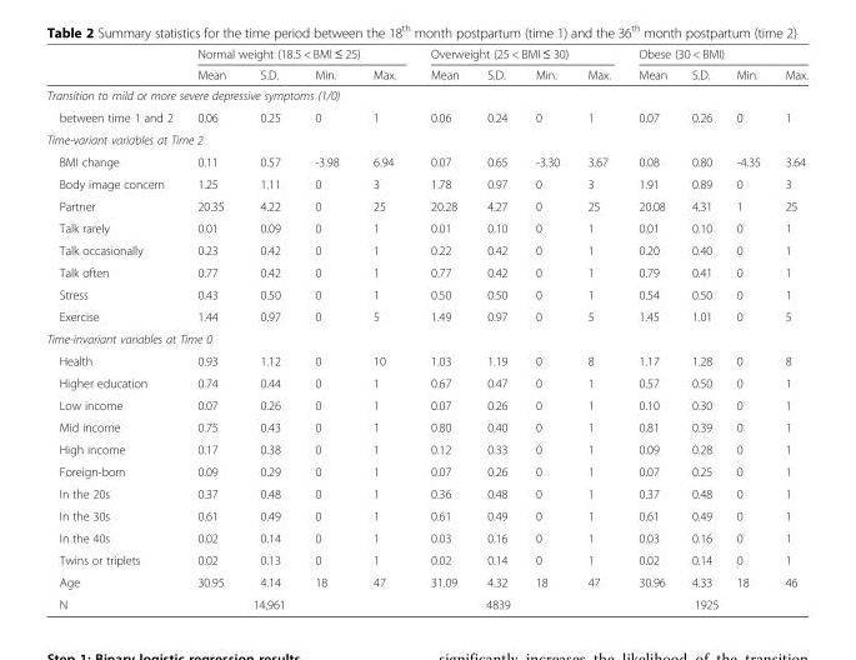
<table><thead><tr><td rowspan="2"></td><td colspan="4">Normal weight (18.5 &lt; BMI ≤ 25)</td><td colspan="4">Overweight (25 &lt; BMI ≤ 30)</td><td colspan="4">Obese (30 &lt; BMI)</td></tr><tr><td>Mean</td><td>S.D.</td><td>Min.</td><td>Max.</td><td>Mean</td><td>S.D.</td><td>Min.</td><td>Max.</td><td>Mean</td><td>S.D.</td><td>Min.</td><td>Max.</td></tr></thead><tbody><tr><td colspan="13">Transition to mild or more severe depressive symptoms (1/0)</td></tr><tr><td>between time 1 and 2</td><td>0.06</td><td>0.25</td><td>0</td><td>1</td><td>0.06</td><td>0.24</td><td>0</td><td>1</td><td>0.07</td><td>0.26</td><td>0</td><td>1</td></tr><tr><td colspan="13">Time-variant variables at Time 2</td></tr><tr><td>BMI change</td><td>0.11</td><td>0.57</td><td>-3.98</td><td>6.94</td><td>0.07</td><td>0.65</td><td>-3.30</td><td>3.67</td><td>0.08</td><td>0.80</td><td>-4.35</td><td>3.64</td></tr><tr><td>Body image concern</td><td>1.25</td><td>1.11</td><td>0</td><td>3</td><td>1.78</td><td>0.97</td><td>0</td><td>3</td><td>1.91</td><td>0.89</td><td>0</td><td>3</td></tr><tr><td>Partner</td><td>20.35</td><td>4.22</td><td>0</td><td>25</td><td>20.28</td><td>4.27</td><td>0</td><td>25</td><td>20.08</td><td>4.31</td><td>1</td><td>25</td></tr><tr><td>Talk rarely</td><td>0.01</td><td>0.09</td><td>0</td><td>1</td><td>0.01</td><td>0.10</td><td>0</td><td>1</td><td>0.01</td><td>0.10</td><td>0</td><td>1</td></tr><tr><td>Talk occasionally</td><td>0.23</td><td>0.42</td><td>0</td><td>1</td><td>0.22</td><td>0.42</td><td>0</td><td>1</td><td>0.20</td><td>0.40</td><td>0</td><td>1</td></tr><tr><td>Talk often</td><td>0.77</td><td>0.42</td><td>0</td><td>1</td><td>0.77</td><td>0.42</td><td>0</td><td>1</td><td>0.79</td><td>0.41</td><td>0</td><td>1</td></tr><tr><td>Stress</td><td>0.43</td><td>0.50</td><td>0</td><td>1</td><td>0.50</td><td>0.50</td><td>0</td><td>1</td><td>0.54</td><td>0.50</td><td>0</td><td>1</td></tr><tr><td>Exercise</td><td>1.44</td><td>0.97</td><td>0</td><td>5</td><td>1.49</td><td>0.97</td><td>0</td><td>5</td><td>1.45</td><td>1.01</td><td>0</td><td>5</td></tr><tr><td colspan="13">Time-invariant variables at Time 0</td></tr><tr><td>Health</td><td>0.93</td><td>1.12</td><td>0</td><td>10</td><td>1.03</td><td>1.19</td><td>0</td><td>8</td><td>1.17</td><td>1.28</td><td>0</td><td>8</td></tr><tr><td>Higher education</td><td>0.74</td><td>0.44</td><td>0</td><td>1</td><td>0.67</td><td>0.47</td><td>0</td><td>1</td><td>0.57</td><td>0.50</td><td>0</td><td>1</td></tr><tr><td>Low income</td><td>0.07</td><td>0.26</td><td>0</td><td>1</td><td>0.07</td><td>0.26</td><td>0</td><td>1</td><td>0.10</td><td>0.30</td><td>0</td><td>1</td></tr><tr><td>Mid income</td><td>0.75</td><td>0.43</td><td>0</td><td>1</td><td>0.80</td><td>0.40</td><td>0</td><td>1</td><td>0.81</td><td>0.39</td><td>0</td><td>1</td></tr><tr><td>High income</td><td>0.17</td><td>0.38</td><td>0</td><td>1</td><td>0.12</td><td>0.33</td><td>0</td><td>1</td><td>0.09</td><td>0.28</td><td>0</td><td>1</td></tr><tr><td>Foreign-born</td><td>0.09</td><td>0.29</td><td>0</td><td>1</td><td>0.07</td><td>0.26</td><td>0</td><td>1</td><td>0.07</td><td>0.25</td><td>0</td><td>1</td></tr><tr><td>In the 20s</td><td>0.37</td><td>0.48</td><td>0</td><td>1</td><td>0.36</td><td>0.48</td><td>0</td><td>1</td><td>0.37</td><td>0.48</td><td>0</td><td>1</td></tr><tr><td>In the 30s</td><td>0.61</td><td>0.49</td><td>0</td><td>1</td><td>0.61</td><td>0.49</td><td>0</td><td>1</td><td>0.61</td><td>0.49</td><td>0</td><td>1</td></tr><tr><td>In the 40s</td><td>0.02</td><td>0.14</td><td>0</td><td>1</td><td>0.03</td><td>0.16</td><td>0</td><td>1</td><td>0.03</td><td>0.16</td><td>0</td><td>1</td></tr><tr><td>Twins or triplets</td><td>0.02</td><td>0.13</td><td>0</td><td>1</td><td>0.02</td><td>0.14</td><td>0</td><td>1</td><td>0.02</td><td>0.14</td><td>0</td><td>1</td></tr><tr><td>Age</td><td>30.95</td><td>4.14</td><td>18</td><td>47</td><td>31.09</td><td>4.32</td><td>18</td><td>47</td><td>30.96</td><td>4.33</td><td>18</td><td>46</td></tr><tr><td>N</td><td colspan="4">14,961</td><td colspan="4">4839</td><td colspan="4">1925</td></tr></tbody></table>